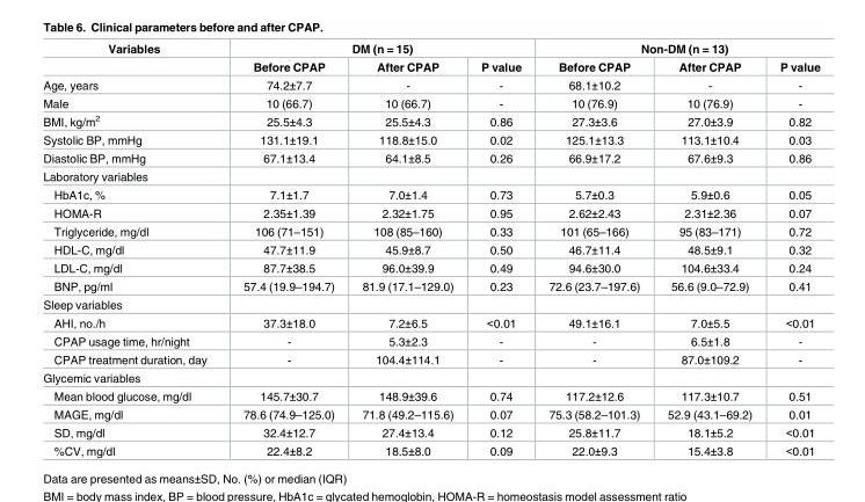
<table><thead><tr><td rowspan="2">Variables</td><td colspan="3">DM (n = 15)</td><td colspan="3">Non-DM (n = 13)</td></tr><tr><td>Before CPAP</td><td>After CPAP</td><td>P value</td><td>Before CPAP</td><td>After CPAP</td><td>P value</td></tr></thead><tbody><tr><td>Age, years</td><td>74.2±7.7</td><td>-</td><td>-</td><td>68.1±10.2</td><td>-</td><td>-</td></tr><tr><td>Male</td><td>10 (66.7)</td><td>10 (66.7)</td><td>-</td><td>10 (76.9)</td><td>10 (76.9)</td><td>-</td></tr><tr><td>BMI, kg/m<sup>2</sup></td><td>25.5±4.3</td><td>25.5±4.3</td><td>0.86</td><td>27.3±3.6</td><td>27.0±3.9</td><td>0.82</td></tr><tr><td>Systolic BP, mmHg</td><td>131.1±19.1</td><td>118.8±15.0</td><td>0.02</td><td>125.1±13.3</td><td>113.1±10.4</td><td>0.03</td></tr><tr><td>Diastolic BP, mmHg</td><td>67.1±13.4</td><td>64.1±8.5</td><td>0.26</td><td>66.9±17.2</td><td>67.6±9.3</td><td>0.86</td></tr><tr><td colspan="7">Laboratory variables</td></tr><tr><td>HbA1c, %</td><td>7.1±1.7</td><td>7.0±1.4</td><td>0.73</td><td>5.7±0.3</td><td>5.9±0.6</td><td>0.05</td></tr><tr><td>HOMA-R</td><td>2.35±1.39</td><td>2.32±1.75</td><td>0.95</td><td>2.62±2.43</td><td>2.31±2.36</td><td>0.07</td></tr><tr><td>Triglyceride, mg/dl</td><td>106 (71–151)</td><td>108 (85–160)</td><td>0.33</td><td>101 (65–166)</td><td>95 (83–171)</td><td>0.72</td></tr><tr><td>HDL-C, mg/dl</td><td>47.7±11.9</td><td>45.9±8.7</td><td>0.50</td><td>46.7±11.4</td><td>48.5±9.1</td><td>0.32</td></tr><tr><td>LDL-C, mg/dl</td><td>87.7±38.5</td><td>96.0±39.9</td><td>0.49</td><td>94.6±30.0</td><td>104.6±33.4</td><td>0.24</td></tr><tr><td>BNP, pg/ml</td><td>57.4 (19.9–194.7)</td><td>81.9 (17.1–129.0)</td><td>0.23</td><td>72.6 (23.7–197.6)</td><td>56.6 (9.0–72.9)</td><td>0.41</td></tr><tr><td colspan="7">Sleep variables</td></tr><tr><td>AHI, no./h</td><td>37.3±18.0</td><td>7.2±6.5</td><td>&lt;0.01</td><td>49.1±16.1</td><td>7.0±5.5</td><td>&lt;0.01</td></tr><tr><td>CPAP usage time, hr/night</td><td>-</td><td>5.3±2.3</td><td>-</td><td>-</td><td>6.5±1.8</td><td>-</td></tr><tr><td>CPAP treatment duration, day</td><td>-</td><td>104.4±114.1</td><td>-</td><td>-</td><td>87.0±109.2</td><td>-</td></tr><tr><td colspan="7">Glycemic variables</td></tr><tr><td>Mean blood glucose, mg/dl</td><td>145.7±30.7</td><td>148.9±39.6</td><td>0.74</td><td>117.2±12.6</td><td>117.3±10.7</td><td>0.51</td></tr><tr><td>MAGE, mg/dl</td><td>78.6 (74.9–125.0)</td><td>71.8 (49.2–115.6)</td><td>0.07</td><td>75.3 (58.2–101.3)</td><td>52.9 (43.1–69.2)</td><td>0.01</td></tr><tr><td>SD, mg/dl</td><td>32.4±12.7</td><td>27.4±13.4</td><td>0.12</td><td>25.8±11.7</td><td>18.1±5.2</td><td>&lt;0.01</td></tr><tr><td>%CV, mg/dl</td><td>22.4±8.2</td><td>18.5±8.0</td><td>0.09</td><td>22.0±9.3</td><td>15.4±3.8</td><td>&lt;0.01</td></tr></tbody></table>